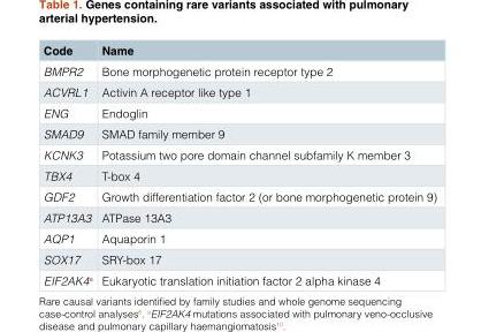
<table><thead><tr><td>Code</td><td>Name</td></tr></thead><tbody><tr><td>BMPR2</td><td>Bone morphogenetic protein receptor type 2</td></tr><tr><td>ACVRL1</td><td>Activin A receptor like type 1</td></tr><tr><td>ENG</td><td>Endoglin</td></tr><tr><td>SMAD9</td><td>SMAD family member 9</td></tr><tr><td>KCNK3</td><td>Potassium two pore domain channel subfamily K member 3</td></tr><tr><td>TBX4</td><td>T-box 4</td></tr><tr><td>GDF2</td><td>Growth differentiation factor 2 (or bone morphogenetic protein 9)</td></tr><tr><td>ATP13A3</td><td>ATPase 13A3</td></tr><tr><td>AQP1</td><td>Aquaporin 1</td></tr><tr><td>SOX17</td><td>SRY-box 17</td></tr><tr><td>EIF2AK4<sup>a</sup></td><td>Eukaryotic translation initiation factor 2 alpha kinase 4</td></tr></tbody></table>